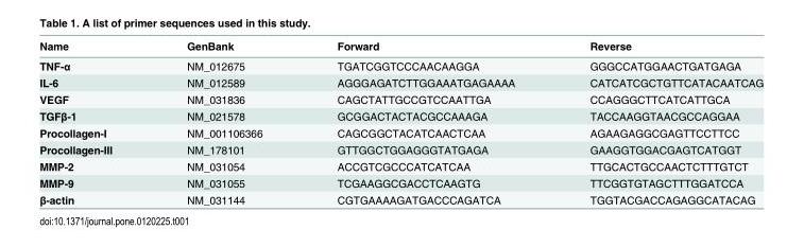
<table><thead><tr><td>Name</td><td>GenBank</td><td>Forward</td><td>Reverse</td></tr></thead><tbody><tr><td>TNF-α</td><td>NM_012675</td><td>TGATCGGTCCCAACAAGGA</td><td>GGGCCATGGAACTGATGAGA</td></tr><tr><td>IL-6</td><td>NM_012589</td><td>AGGGAGATCTTGGAAATGAGAAAA</td><td>CATCATCGCTGTTCATACAATCAG</td></tr><tr><td>VEGF</td><td>NM_031836</td><td>CAGCTATTGCCGTCCAATTGA</td><td>CCAGGGCTTCATCATTGCA</td></tr><tr><td>TGFβ-1</td><td>NM_021578</td><td>GCGGACTACTACGCCAAAGA</td><td>TACCAAGGTAACGCCAGGAA</td></tr><tr><td>Procollagen-I</td><td>NM_001106366</td><td>CAGCGGCTACATCAACTCAA</td><td>AGAAGAGGCGAGTTCCTTCC</td></tr><tr><td>Procollagen-III</td><td>NM_178101</td><td>GTTGGCTGGAGGGTATGAGA</td><td>GAAGGTGGACGAGTCATGGT</td></tr><tr><td>MMP-2</td><td>NM_031054</td><td>ACCGTCGCCCATCATCAA</td><td>TTGCACTGCCAACTCTTTGTCT</td></tr><tr><td>MMP-9</td><td>NM_031055</td><td>TCGAAGGCGACCTCAAGTG</td><td>TTCGGTGTAGCTTTGGATCCA</td></tr><tr><td>β-actin</td><td>NM_031144</td><td>CGTGAAAAGATGACCCAGATCA</td><td>TGGTACGACCAGAGGCATACAG</td></tr></tbody></table>